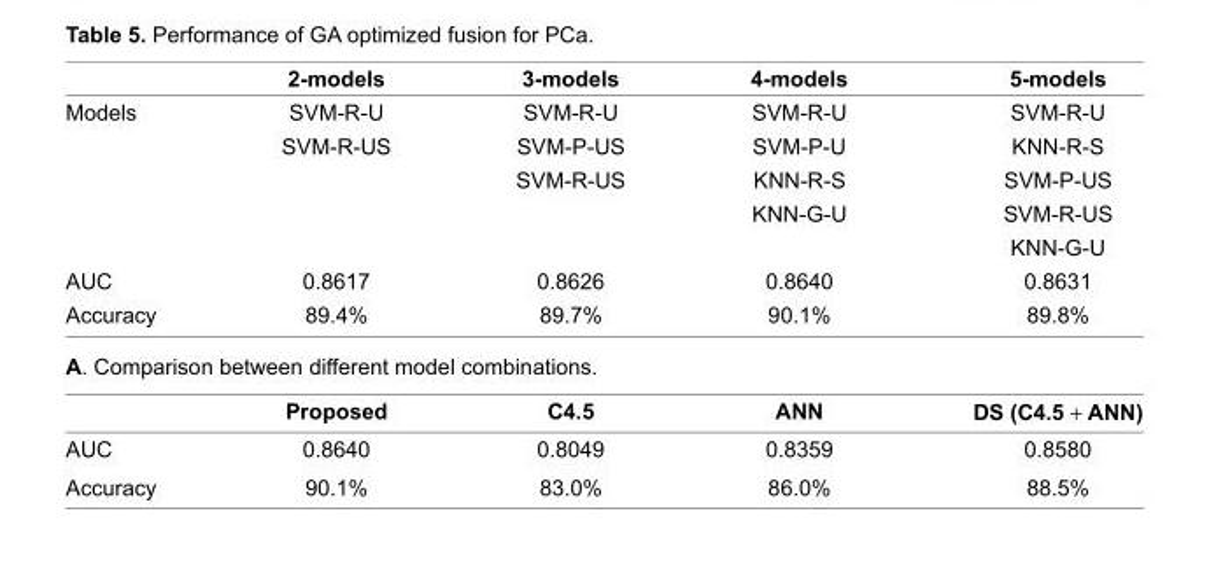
<table><thead><tr><td></td><td>2-models</td><td>3-models</td><td>4-models</td><td>5-models</td></tr></thead><tbody><tr><td rowspan="5">Models</td><td>SVM-R-U</td><td>SVM-R-U</td><td>SVM-R-U</td><td>SVM-R-U</td></tr><tr><td>SVM-R-US</td><td>SVM-P-US</td><td>SVM-P-U</td><td>KNN-R-S</td></tr><tr><td></td><td>SVM-R-US</td><td>KNN-R-S</td><td>SVM-P-US</td></tr><tr><td></td><td></td><td>KNN-G-U</td><td>SVM-R-US</td></tr><tr><td></td><td></td><td></td><td>KNN-G-U</td></tr><tr><td>AUC</td><td>0.8617</td><td>0.8626</td><td>0.8640</td><td>0.8631</td></tr><tr><td>Accuracy</td><td>89.4%</td><td>89.7%</td><td>90.1%</td><td>89.8%</td></tr><tr><td colspan="5">A. Comparison between different model combinations.</td></tr><tr><td></td><td>Proposed</td><td>C4.5</td><td>ANN</td><td>DS (C4.5 + ANN)</td></tr><tr><td>AUC</td><td>0.8640</td><td>0.8049</td><td>0.8359</td><td>0.8580</td></tr><tr><td>Accuracy</td><td>90.1%</td><td>83.0%</td><td>86.0%</td><td>88.5%</td></tr></tbody></table>